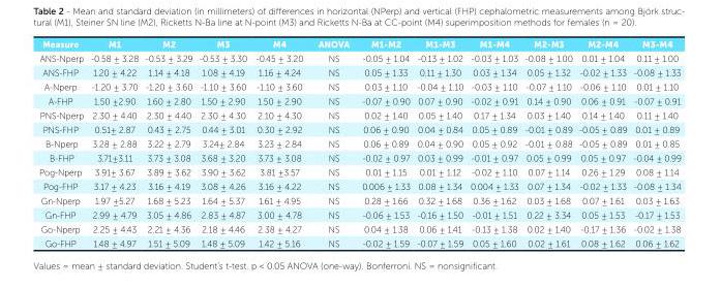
<table><thead><tr><td>Measure</td><td>M1</td><td>M2</td><td>M3</td><td>M4</td><td>ANOVA</td><td>M1-M2</td><td>M1-M3</td><td>M1-M4</td><td>M2-M3</td><td>M2-M4</td><td>M3-M4</td></tr></thead><tbody><tr><td>ANS-Nperp</td><td>-0.58 ± 3.28</td><td>-0.53 ± 3.29</td><td>-0.53 ± 3.30</td><td>-0.45 ± 3.20</td><td>NS</td><td>-0.05 ± 1.04</td><td>-0.13 ± 1.02</td><td>-0.03 ± 1.03</td><td>-0.08 ± 1.00</td><td>0.01 ± 1.04</td><td>0.11 ± 1.00</td></tr><tr><td>ANS-FHP</td><td>1.20 ± 4.22</td><td>1.14 ± 4.18</td><td>1.08 ± 4.19</td><td>1.16 ± 4.24</td><td>NS</td><td>0.05 ± 1.33</td><td>0.11 ± 1.30</td><td>0.03 ± 1.34</td><td>0.05 ± 1.32</td><td>-0.02 ± 1.33</td><td>-0.08 ± 1.33</td></tr><tr><td>A-Nperp</td><td>-1.20 ± 3.70</td><td>-1.20 ± 3.60</td><td>-1.10 ± 3.60</td><td>-1.10 ± 3.60</td><td>NS</td><td>0.03 ± 1.10</td><td>-0.04 ± 1.10</td><td>-0.03 ± 1.10</td><td>-0.07 ± 1.10</td><td>-0.06 ± 1.10</td><td>0.01 ± 1.10</td></tr><tr><td>A-FHP</td><td>1.50 ±2.90</td><td>1.60 ± 2.80</td><td>1.50 ± 2.90</td><td>1.50 ± 2.90</td><td>NS</td><td>-0.07 ± 0.90</td><td>0.07 ± 0.90</td><td>-0.02 ± 0.91</td><td>0.14 ± 0.90</td><td>0.06 ± 0.91</td><td>-0.07 ± 0.91</td></tr><tr><td>PNS-Nperp</td><td>2.30 ± 4.40</td><td>2.30 ± 4.40</td><td>2.30 ± 4.30</td><td>2.10 ± 4.30</td><td>NS</td><td>0.02 ± 1.40</td><td>0.05 ± 1.40</td><td>0.17 ± 1.34</td><td>0.03 ± 1.40</td><td>0.14 ± 1.40</td><td>0.11 ± 1.40</td></tr><tr><td>PNS-FHP</td><td>0.51± 2.87</td><td>0.43 ± 2.75</td><td>0.44 ± 3.01</td><td>0.30 ± 2.92</td><td>NS</td><td>0.06 ± 0.90</td><td>0.04 ± 0.84</td><td>0.05 ± 0.89</td><td>-0.01 ± 0.89</td><td>-0.05 ± 0.89</td><td>0.01 ± 0.89</td></tr><tr><td>B-Nperp</td><td>3.28 ± 2.88</td><td>3.22 ± 2.79</td><td>3.24± 2.84</td><td>3.23 ± 2.84</td><td>NS</td><td>0.06 ± 0.89</td><td>0.04 ± 0.90</td><td>0.05 ± 0.92</td><td>-0.01 ± 0.88</td><td>-0.05 ± 0.89</td><td>0.01 ± 0.85</td></tr><tr><td>B-FHP</td><td>3.71±3.11</td><td>3.73 ± 3.08</td><td>3.68 ± 3.20</td><td>3.73 ± 3.08</td><td>NS</td><td>-0.02 ± 0.97</td><td>0.03 ± 0.99</td><td>-0.01 ± 0.97</td><td>0.05 ± 0.99</td><td>0.05 ± 0.97</td><td>-0.04 ± 0.99</td></tr><tr><td>Pog-Nperp</td><td>3.91± 3.67</td><td>3.89 ± 3.62</td><td>3.90 ± 3.62</td><td>3.81 ±3.57</td><td>NS</td><td>0.01 ± 1.15</td><td>0.01 ± 1.12</td><td>-0.02 ± 1.10</td><td>0.07 ± 1.14</td><td>0.26 ± 1.29</td><td>0.08 ± 1.14</td></tr><tr><td>Pog-FHP</td><td>3.17 ± 4.23</td><td>3.16 ± 4.19</td><td>3.08 ± 4.26</td><td>3.16 ± 4.22</td><td>NS</td><td>0.006 ± 1.33</td><td>0.08 ± 1.34</td><td>0.004 ± 1.33</td><td>0.07 ± 1.34</td><td>-0.02 ± 1.33</td><td>-0.08 ± 1.34</td></tr><tr><td>Gn-Nperp</td><td>1.97 ±5.27</td><td>1.68 ± 5.23</td><td>1.64 ± 5.37</td><td>1.61 ± 4.95</td><td>NS</td><td>0.28 ± 1.66</td><td>0.32 ± 1.68</td><td>0.36 ± 1.62</td><td>0.03 ± 1.68</td><td>0.07 ± 1.61</td><td>0.03 ± 1.63</td></tr><tr><td>Gn-FHP</td><td>2.99 ± 4.79</td><td>3.05 ± 4.86</td><td>2.83 ± 4.87</td><td>3.00 ± 4.78</td><td>NS</td><td>-0.06 ± 1.53</td><td>-0.16 ± 1.50</td><td>-0.01 ± 1.51</td><td>0.22 ± 3.34</td><td>0.05 ± 1.53</td><td>-0.17 ± 1.53</td></tr><tr><td>Go-Nperp</td><td>2.25 ± 4.43</td><td>2.21 ± 4.36</td><td>2.18 ± 4.46</td><td>2.38 ± 4.27</td><td>NS</td><td>0.04 ± 1.38</td><td>0.06 ± 1.41</td><td>-0.13 ± 1.38</td><td>0.02 ± 1.40</td><td>-0.17 ± 1.36</td><td>-0.02 ± 1.38</td></tr><tr><td>Go-FHP</td><td>1.48 ± 4.97</td><td>1.51 ± 5.09</td><td>1.48 ± 5.09</td><td>1.42 ± 5.16</td><td>NS</td><td>-0.02 ± 1.59</td><td>-0.07 ± 1.59</td><td>0.05 ± 1.60</td><td>0.02 ± 1.61</td><td>0.08 ± 1.62</td><td>0.06 ± 1.62</td></tr></tbody></table>